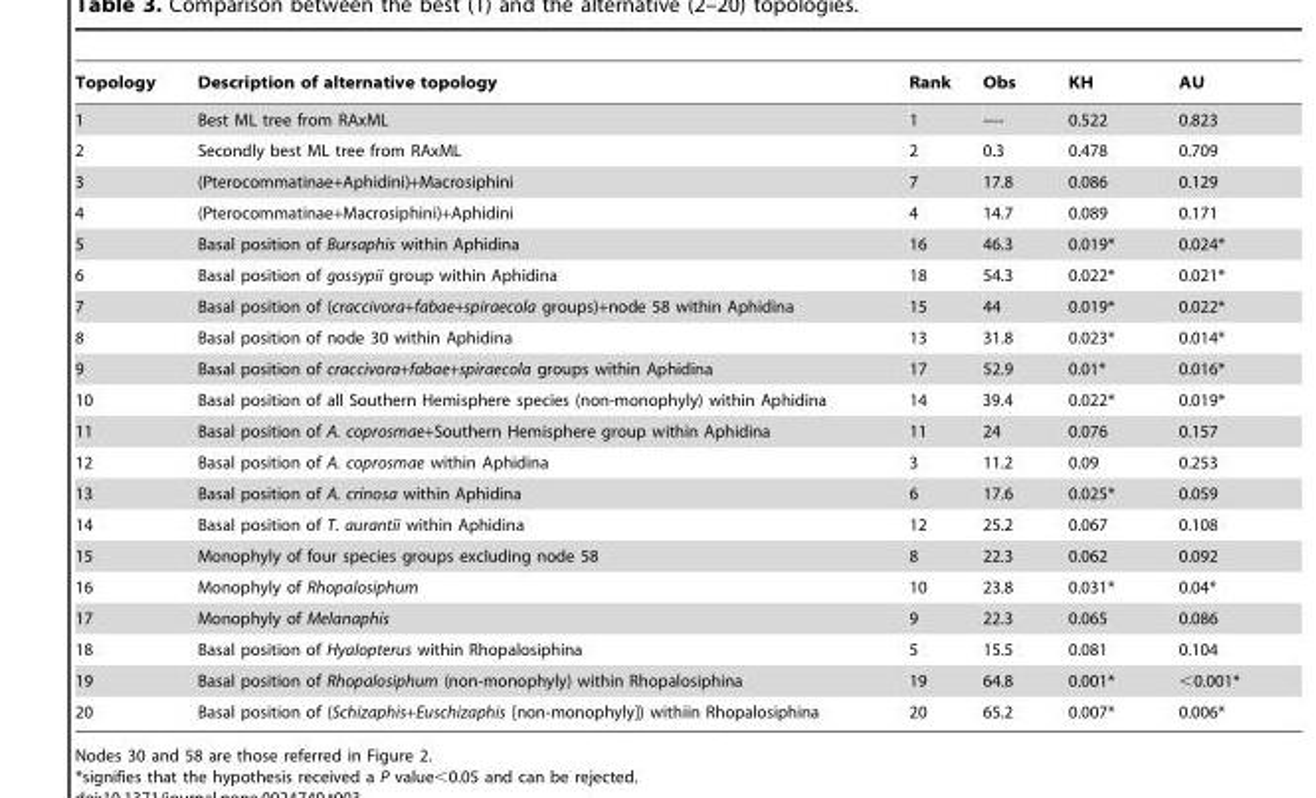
<table><thead><tr><td>Topology</td><td>Description of alternative topology</td><td>Rank</td><td>Obs</td><td>KH</td><td>AU</td></tr></thead><tbody><tr><td>1</td><td>Best ML tree from RAxML</td><td>1</td><td>----</td><td>0.522</td><td>0.823</td></tr><tr><td>2</td><td>Secondly best ML tree from RAxML</td><td>2</td><td>0.3</td><td>0.478</td><td>0.709</td></tr><tr><td>3</td><td>(Pterocommatinae+Aphidini)+Macrosiphini</td><td>7</td><td>17.8</td><td>0.086</td><td>0.129</td></tr><tr><td>4</td><td>(Pterocommatinae+Macrosiphini)+Aphidini</td><td>4</td><td>14.7</td><td>0.089</td><td>0.171</td></tr><tr><td>5</td><td>Basal position of Bursaphis within Aphidina</td><td>16</td><td>46.3</td><td>0.019*</td><td>0.024*</td></tr><tr><td>6</td><td>Basal position of gossypii group within Aphidina</td><td>18</td><td>54.3</td><td>0.022*</td><td>0.021*</td></tr><tr><td>7</td><td>Basal position of (craccivora+fabae+spiraecola groups)+node 58 within Aphidina</td><td>15</td><td>44</td><td>0.019*</td><td>0.022*</td></tr><tr><td>8</td><td>Basal position of node 30 within Aphidina</td><td>13</td><td>31.8</td><td>0.023*</td><td>0.014*</td></tr><tr><td>9</td><td>Basal position of craccivora+fabae+spiraecola groups within Aphidina</td><td>17</td><td>52.9</td><td>0.01*</td><td>0.016*</td></tr><tr><td>10</td><td>Basal position of all Southern Hemisphere species (non-monophyly) within Aphidina</td><td>14</td><td>39.4</td><td>0.022*</td><td>0.019*</td></tr><tr><td>11</td><td>Basal position of A. coprosmae+Southern Hemisphere group within Aphidina</td><td>11</td><td>24</td><td>0.076</td><td>0.157</td></tr><tr><td>12</td><td>Basal position of A. coprosmae within Aphidina</td><td>3</td><td>11.2</td><td>0.09</td><td>0.253</td></tr><tr><td>13</td><td>Basal position of A. crinosa within Aphidina</td><td>6</td><td>17.6</td><td>0.025*</td><td>0.059</td></tr><tr><td>14</td><td>Basal position of T. aurantii within Aphidina</td><td>12</td><td>25.2</td><td>0.067</td><td>0.108</td></tr><tr><td>15</td><td>Monophyly of four species groups excluding node 58</td><td>8</td><td>22.3</td><td>0.062</td><td>0.092</td></tr><tr><td>16</td><td>Monophyly of Rhopalosiphum</td><td>10</td><td>23.8</td><td>0.031*</td><td>0.04*</td></tr><tr><td>17</td><td>Monophyly of Melanaphis</td><td>9</td><td>22.3</td><td>0.065</td><td>0.086</td></tr><tr><td>18</td><td>Basal position of Hyalopterus within Rhopalosiphina</td><td>5</td><td>15.5</td><td>0.081</td><td>0.104</td></tr><tr><td>19</td><td>Basal position of Rhopalosiphum (non-monophyly) within Rhopalosiphina</td><td>19</td><td>64.8</td><td>0.001*</td><td>&lt;0.001*</td></tr><tr><td>20</td><td>Basal position of (Schizaphis+Euschizaphis [non-monophyly]) withiin Rhopalosiphina</td><td>20</td><td>65.2</td><td>0.007*</td><td>0.006*</td></tr></tbody></table>